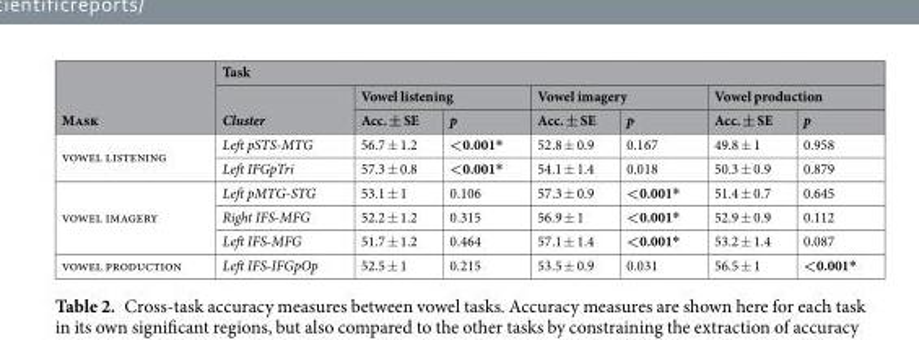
<table><thead><tr><td rowspan="3">Mask</td><td colspan="7">Task</td></tr><tr><td rowspan="2">Cluster</td><td colspan="2">Vowel listening</td><td colspan="2">Vowel imagery</td><td colspan="2">Vowel production</td></tr><tr><td>Acc. ± SE</td><td>p</td><td>Acc. ± SE</td><td>p</td><td>Acc. ± SE</td><td>p</td></tr></thead><tbody><tr><td rowspan="2">vowel listening</td><td>Left pSTS-MTG</td><td>56.7 ± 1.2</td><td>&lt;0.001*</td><td>52.8 ± 0.9</td><td>0.167</td><td>49.8 ± 1</td><td>0.958</td></tr><tr><td>Left IFGpTri</td><td>57.3 ± 0.8</td><td>&lt;0.001*</td><td>54.1 ± 1.4</td><td>0.018</td><td>50.3 ± 0.9</td><td>0.879</td></tr><tr><td rowspan="3">vowel imagery</td><td>Left pMTG-STG</td><td>53.1 ± 1</td><td>0.106</td><td>57.3 ± 0.9</td><td>&lt;0.001*</td><td>51.4 ± 0.7</td><td>0.645</td></tr><tr><td>Right IFS-MFG</td><td>52.2 ± 1.2</td><td>0.315</td><td>56.9 ± 1</td><td>&lt;0.001*</td><td>52.9 ± 0.9</td><td>0.112</td></tr><tr><td>Left IFS-MFG</td><td>51.7 ± 1.2</td><td>0.464</td><td>57.1 ± 1.4</td><td>&lt;0.001*</td><td>53.2 ± 1.4</td><td>0.087</td></tr><tr><td>vowel production</td><td>Left IFS-IFGpOp</td><td>52.5 ± 1</td><td>0.215</td><td>53.5 ± 0.9</td><td>0.031</td><td>56.5 ± 1</td><td>&lt;0.001*</td></tr></tbody></table>